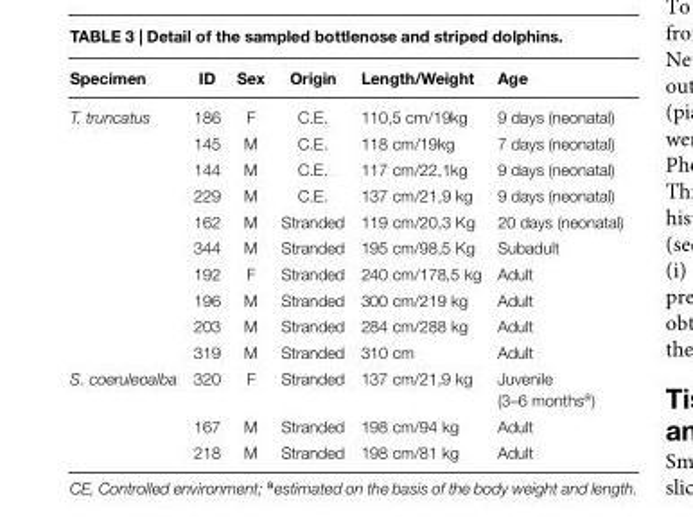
<table><thead><tr><td>Specimen</td><td>ID</td><td>Sex</td><td>Origin</td><td>Length/Weight</td><td>Age</td></tr></thead><tbody><tr><td rowspan="10">T. truncatus</td><td>186</td><td>F</td><td>C.E.</td><td>110,5 cm/19kg</td><td>9 days (neonatal)</td></tr><tr><td>145</td><td>M</td><td>C.E.</td><td>118 cm/19kg</td><td>7 days (neonatal)</td></tr><tr><td>144</td><td>M</td><td>C.E.</td><td>117 cm/22,1kg</td><td>9 days (neonatal)</td></tr><tr><td>229</td><td>M</td><td>C.E.</td><td>137 cm/21,9 kg</td><td>9 days (neonatal)</td></tr><tr><td>162</td><td>M</td><td>Stranded</td><td>119 cm/20,3 Kg</td><td>20 days (neonatal)</td></tr><tr><td>344</td><td>M</td><td>Stranded</td><td>195 cm/98,5 Kg</td><td>Subadult</td></tr><tr><td>192</td><td>F</td><td>Stranded</td><td>240 cm/178,5 kg</td><td>Adult</td></tr><tr><td>196</td><td>M</td><td>Stranded</td><td>300 cm/219 kg</td><td>Adult</td></tr><tr><td>203</td><td>M</td><td>Stranded</td><td>284 cm/288 kg</td><td>Adult</td></tr><tr><td>319</td><td>M</td><td>Stranded</td><td>310 cm</td><td>Adult</td></tr><tr><td rowspan="3">S. coeruleoalba</td><td>320</td><td>F</td><td>Stranded</td><td>137 cm/21,9 kg</td><td>Juvenile (3–6 months<sup>a</sup>)</td></tr><tr><td>167</td><td>M</td><td>Stranded</td><td>198 cm/94 kg</td><td>Adult</td></tr><tr><td>218</td><td>M</td><td>Stranded</td><td>198 cm/81 kg</td><td>Adult</td></tr></tbody></table>